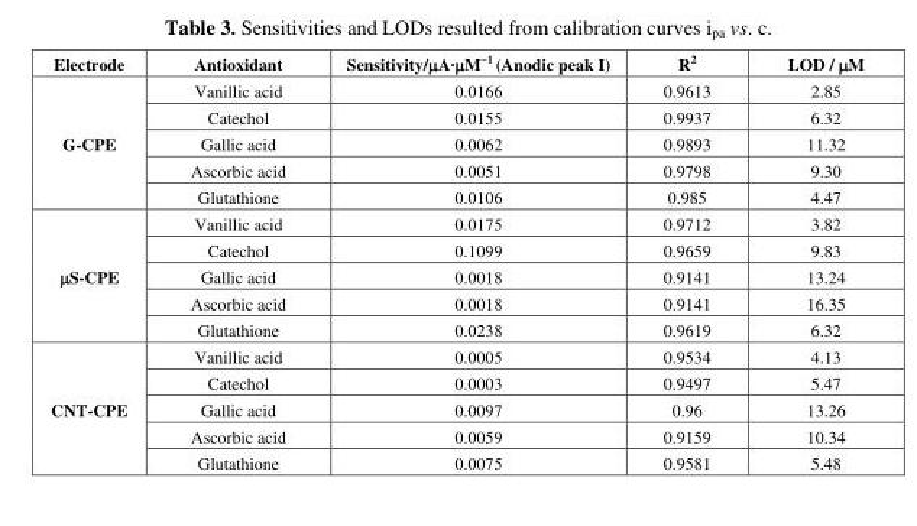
<table><thead><tr><td>Electrode</td><td>Antioxidant</td><td>Sensitivity/μA·μM<sup>−1</sup> (Anodic peak I)</td><td>R<sup>2</sup></td><td>LOD / μM</td></tr></thead><tbody><tr><td rowspan="5">G-CPE</td><td>Vanillic acid</td><td>0.0166</td><td>0.9613</td><td>2.85</td></tr><tr><td>Catechol</td><td>0.0155</td><td>0.9937</td><td>6.32</td></tr><tr><td>Gallic acid</td><td>0.0062</td><td>0.9893</td><td>11.32</td></tr><tr><td>Ascorbic acid</td><td>0.0051</td><td>0.9798</td><td>9.30</td></tr><tr><td>Glutathione</td><td>0.0106</td><td>0.985</td><td>4.47</td></tr><tr><td rowspan="5">μS-CPE</td><td>Vanillic acid</td><td>0.0175</td><td>0.9712</td><td>3.82</td></tr><tr><td>Catechol</td><td>0.1099</td><td>0.9659</td><td>9.83</td></tr><tr><td>Gallic acid</td><td>0.0018</td><td>0.9141</td><td>13.24</td></tr><tr><td>Ascorbic acid</td><td>0.0018</td><td>0.9141</td><td>16.35</td></tr><tr><td>Glutathione</td><td>0.0238</td><td>0.9619</td><td>6.32</td></tr><tr><td rowspan="5">CNT-CPE</td><td>Vanillic acid</td><td>0.0005</td><td>0.9534</td><td>4.13</td></tr><tr><td>Catechol</td><td>0.0003</td><td>0.9497</td><td>5.47</td></tr><tr><td>Gallic acid</td><td>0.0097</td><td>0.96</td><td>13.26</td></tr><tr><td>Ascorbic acid</td><td>0.0059</td><td>0.9159</td><td>10.34</td></tr><tr><td>Glutathione</td><td>0.0075</td><td>0.9581</td><td>5.48</td></tr></tbody></table>